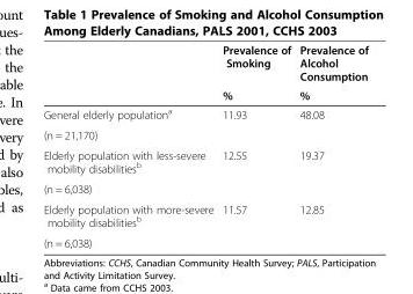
<table><thead><tr><td rowspan="2"></td><td rowspan="2">Prevalence of Smoking %</td><td rowspan="2">Prevalence of Alcohol Consumption %</td></tr><tr></tr></thead><tbody><tr><td>General elderly population<sup>a</sup></td><td rowspan="2">11.93</td><td rowspan="2">48.08</td></tr><tr><td>(n = 21,170)</td></tr><tr><td>Elderly population with less-severe mobility disabilities<sup>b</sup></td><td rowspan="2">12.55</td><td rowspan="2">19.37</td></tr><tr><td>(n = 6,038)</td></tr><tr><td>Elderly population with more-severe mobility disabilities<sup>b</sup></td><td rowspan="2">11.57</td><td rowspan="2">12.85</td></tr><tr><td>(n = 6,038)</td></tr></tbody></table>